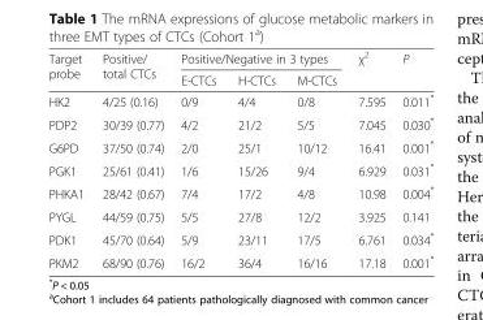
<table><thead><tr><td rowspan="2">Target probe</td><td rowspan="2">Positive/ total CTCs</td><td colspan="3">Positive/Negative in 3 types</td><td rowspan="2">χ<sup>2</sup></td><td rowspan="2">P</td></tr><tr><td>E-CTCs</td><td>H-CTCs</td><td>M-CTCs</td></tr></thead><tbody><tr><td>HK2</td><td>4/25 (0.16)</td><td>0/9</td><td>4/4</td><td>0/8</td><td>7.595</td><td>0.011*</td></tr><tr><td>PDP2</td><td>30/39 (0.77)</td><td>4/2</td><td>21/2</td><td>5/5</td><td>7.045</td><td>0.030*</td></tr><tr><td>G6PD</td><td>37/50 (0.74)</td><td>2/0</td><td>25/1</td><td>10/12</td><td>16.41</td><td>0.001*</td></tr><tr><td>PGK1</td><td>25/61 (0.41)</td><td>1/6</td><td>15/26</td><td>9/4</td><td>6.929</td><td>0.031*</td></tr><tr><td>PHKA1</td><td>28/42 (0.67)</td><td>7/4</td><td>17/2</td><td>4/8</td><td>10.98</td><td>0.004*</td></tr><tr><td>PYGL</td><td>44/59 (0.75)</td><td>5/5</td><td>27/8</td><td>12/2</td><td>3.925</td><td>0.141</td></tr><tr><td>PDK1</td><td>45/70 (0.64)</td><td>5/9</td><td>23/11</td><td>17/5</td><td>6.761</td><td>0.034*</td></tr><tr><td>PKM2</td><td>68/90 (0.76)</td><td>16/2</td><td>36/4</td><td>16/16</td><td>17.18</td><td>0.001*</td></tr></tbody></table>